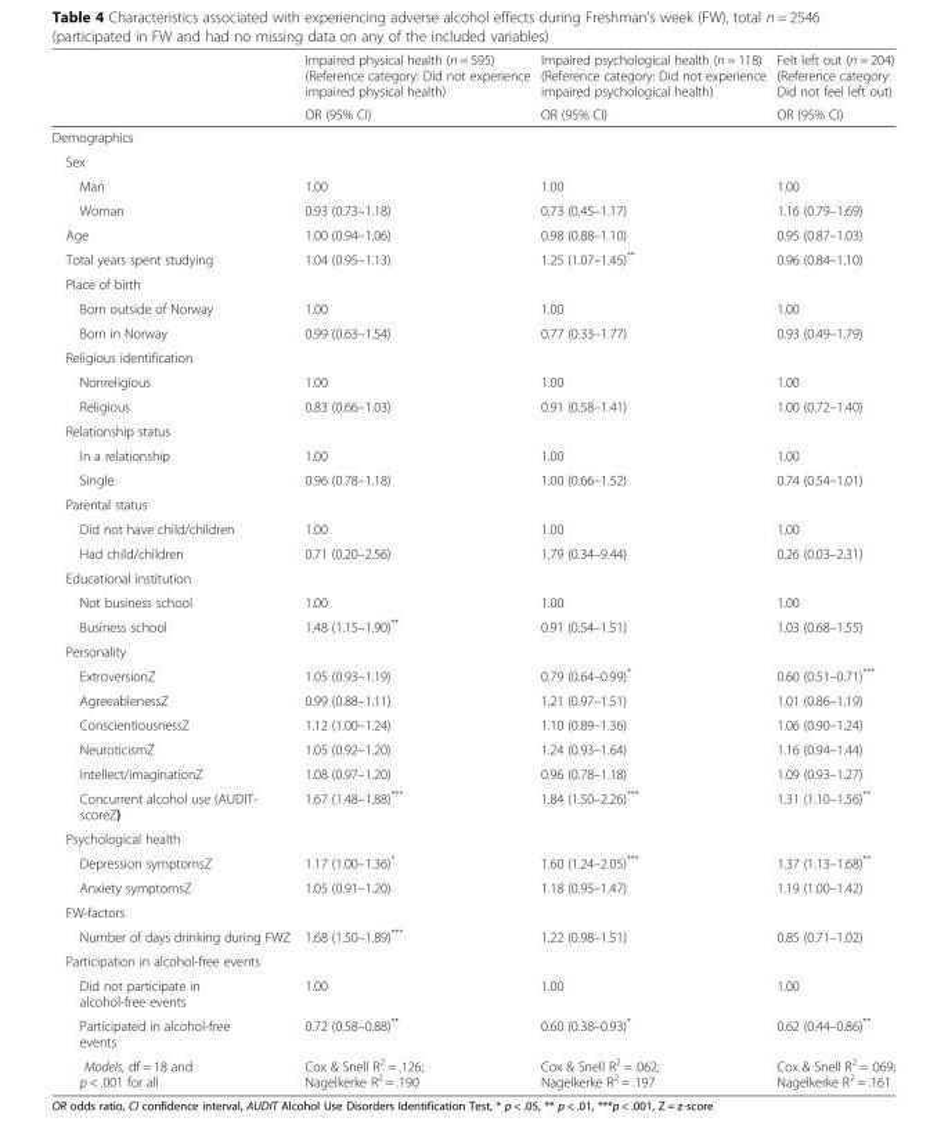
<table><thead><tr><td rowspan="2"></td><td rowspan="2">Impaired physical health (n = 595) (Reference category: Did not experience impaired physical health) OR (95% CI)</td><td rowspan="2">Impaired psychological health (n = 118) (Reference category: Did not experience impaired psychological health) OR (95% CI)</td><td rowspan="2">Felt left out (n = 204) (Reference category: Did not feel left out) OR (95% CI)</td></tr><tr></tr></thead><tbody><tr><td colspan="4">Demographics</td></tr><tr><td colspan="4">Sex</td></tr><tr><td>Man</td><td>1.00</td><td>1.00</td><td>1.00</td></tr><tr><td>Woman</td><td>0.93 (0.73–1.18)</td><td>0.73 (0.45–1.17)</td><td>1.16 (0.79–1.69)</td></tr><tr><td>Age</td><td>1.00 (0.94–1.06)</td><td>0.98 (0.88–1.10)</td><td>0.95 (0.87–1.03)</td></tr><tr><td>Total years spent studying</td><td>1.04 (0.95–1.13)</td><td>1.25 (1.07–1.45)**</td><td>0.96 (0.84–1.10)</td></tr><tr><td colspan="4">Place of birth</td></tr><tr><td>Born outside of Norway</td><td>1.00</td><td>1.00</td><td>1.00</td></tr><tr><td>Born in Norway</td><td>0.99 (0.63–1.54)</td><td>0.77 (0.33–1.77)</td><td>0.93 (0.49–1.79)</td></tr><tr><td colspan="4">Religious identification</td></tr><tr><td>Nonreligious</td><td>1.00</td><td>1.00</td><td>1.00</td></tr><tr><td>Religious</td><td>0.83 (0.66–1.03)</td><td>0.91 (0.58–1.41)</td><td>1.00 (0.72–1.40)</td></tr><tr><td colspan="4">Relationship status</td></tr><tr><td>In a relationship</td><td>1.00</td><td>1.00</td><td>1.00</td></tr><tr><td>Single</td><td>0.96 (0.78–1.18)</td><td>1.00 (0.66–1.52)</td><td>0.74 (0.54–1.01)</td></tr><tr><td colspan="4">Parental status</td></tr><tr><td>Did not have child/children</td><td>1.00</td><td>1.00</td><td>1.00</td></tr><tr><td>Had child/children</td><td>0.71 (0.20–2.56)</td><td>1.79 (0.34–9.44)</td><td>0.26 (0.03–2.31)</td></tr><tr><td colspan="4">Educational institution</td></tr><tr><td>Not business school</td><td>1.00</td><td>1.00</td><td>1.00</td></tr><tr><td>Business school</td><td>1.48 (1.15–1.90)**</td><td>0.91 (0.54–1.51)</td><td>1.03 (0.68–1.55)</td></tr><tr><td colspan="4">Personality</td></tr><tr><td>ExtroversionZ</td><td>1.05 (0.93–1.19)</td><td>0.79 (0.64–0.99)*</td><td>0.60 (0.51–0.71)***</td></tr><tr><td>AgreeablenessZ</td><td>0.99 (0.88–1.11)</td><td>1.21 (0.97–1.51)</td><td>1.01 (0.86–1.19)</td></tr><tr><td>ConscientiousnessZ</td><td>1.12 (1.00–1.24)</td><td>1.10 (0.89–1.36)</td><td>1.06 (0.90–1.24)</td></tr><tr><td>NeuroticismZ</td><td>1.05 (0.92–1.20)</td><td>1.24 (0.93–1.64)</td><td>1.16 (0.94–1.44)</td></tr><tr><td>Intellect/imaginationZ</td><td>1.08 (0.97–1.20)</td><td>0.96 (0.78–1.18)</td><td>1.09 (0.93–1.27)</td></tr><tr><td>Concurrent alcohol use (AUDIT- scoreZ)</td><td>1.67 (1.48–1.88)***</td><td>1.84 (1.50–2.26)***</td><td>1.31 (1.10–1.56)**</td></tr><tr><td colspan="4">Psychological health</td></tr><tr><td>Depression symptomsZ</td><td>1.17 (1.00–1.36)*</td><td>1.60 (1.24–2.05)***</td><td>1.37 (1.13–1.68)**</td></tr><tr><td>Anxiety symptomsZ</td><td>1.05 (0.91–1.20)</td><td>1.18 (0.95–1.47)</td><td>1.19 (1.00–1.42)</td></tr><tr><td colspan="4">FW-factors</td></tr><tr><td>Number of days drinking during FWZ</td><td>1.68 (1.50–1.89)***</td><td>1.22 (0.98–1.51)</td><td>0.85 (0.71–1.02)</td></tr><tr><td colspan="4">Participation in alcohol-free events</td></tr><tr><td>Did not participate in alcohol-free events</td><td>1.00</td><td>1.00</td><td>1.00</td></tr><tr><td>Participated in alcohol-free events</td><td>0.72 (0.58–0.88)**</td><td>0.60 (0.38–0.93)*</td><td>0.62 (0.44–0.86)**</td></tr><tr><td>Models, df = 18 and p &lt; .001 for all</td><td>Cox &amp; Snell R<sup>2</sup> = .126; Nagelkerke R<sup>2</sup> = .190</td><td>Cox &amp; Snell R<sup>2</sup> = .062; Nagelkerke R<sup>2</sup> = .197</td><td>Cox &amp; Snell R<sup>2</sup> = .069; Nagelkerke R<sup>2</sup> = .161</td></tr></tbody></table>